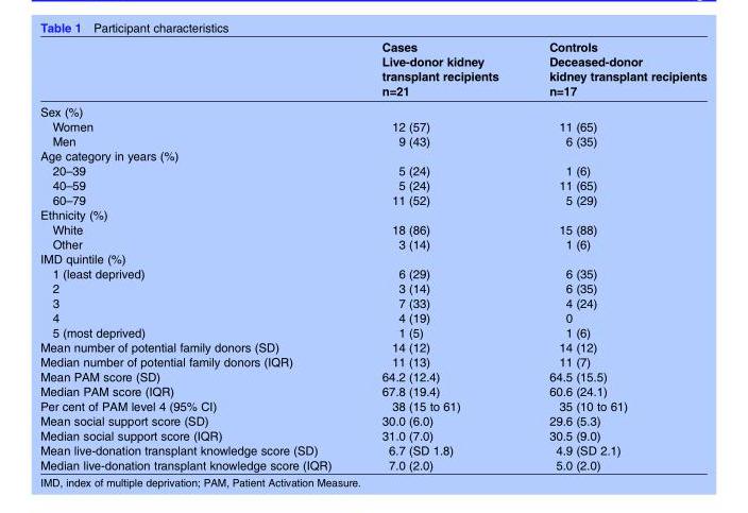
<table><thead><tr><td></td><td>Cases Live-donor kidney transplant recipients n=21</td><td>Controls Deceased-donor kidney transplant recipients n=17</td></tr></thead><tbody><tr><td colspan="3">Sex (%)</td></tr><tr><td>Women</td><td>12 (57)</td><td>11 (65)</td></tr><tr><td>Men</td><td>9 (43)</td><td>6 (35)</td></tr><tr><td colspan="3">Age category in years (%)</td></tr><tr><td>20–39</td><td>5 (24)</td><td>1 (6)</td></tr><tr><td>40–59</td><td>5 (24)</td><td>11 (65)</td></tr><tr><td>60–79</td><td>11 (52)</td><td>5 (29)</td></tr><tr><td colspan="3">Ethnicity (%)</td></tr><tr><td>White</td><td>18 (86)</td><td>15 (88)</td></tr><tr><td>Other</td><td>3 (14)</td><td>1 (6)</td></tr><tr><td colspan="3">IMD quintile (%)</td></tr><tr><td>1 (least deprived)</td><td>6 (29)</td><td>6 (35)</td></tr><tr><td>2</td><td>3 (14)</td><td>6 (35)</td></tr><tr><td>3</td><td>7 (33)</td><td>4 (24)</td></tr><tr><td>4</td><td>4 (19)</td><td>0</td></tr><tr><td>5 (most deprived)</td><td>1 (5)</td><td>1 (6)</td></tr><tr><td>Mean number of potential family donors (SD)</td><td>14 (12)</td><td>14 (12)</td></tr><tr><td>Median number of potential family donors (IQR)</td><td>11 (13)</td><td>11 (7)</td></tr><tr><td>Mean PAM score (SD)</td><td>64.2 (12.4)</td><td>64.5 (15.5)</td></tr><tr><td>Median PAM score (IQR)</td><td>67.8 (19.4)</td><td>60.6 (24.1)</td></tr><tr><td>Per cent of PAM level 4 (95% CI)</td><td>38 (15 to 61)</td><td>35 (10 to 61)</td></tr><tr><td>Mean social support score (SD)</td><td>30.0 (6.0)</td><td>29.6 (5.3)</td></tr><tr><td>Median social support score (IQR)</td><td>31.0 (7.0)</td><td>30.5 (9.0)</td></tr><tr><td>Mean live-donation transplant knowledge score (SD)</td><td>6.7 (SD 1.8)</td><td>4.9 (SD 2.1)</td></tr><tr><td>Median live-donation transplant knowledge score (IQR)</td><td>7.0 (2.0)</td><td>5.0 (2.0)</td></tr></tbody></table>